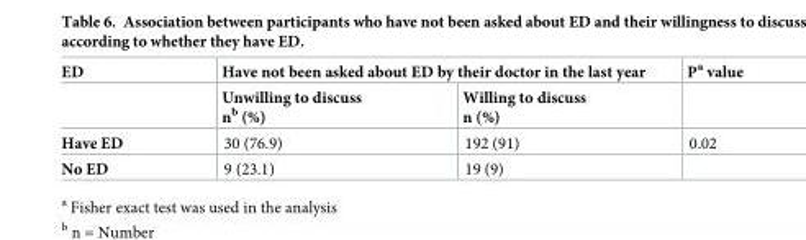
<table><thead><tr><td rowspan="2">ED</td><td colspan="2">Have not been asked about ED by their doctor in the last year</td><td rowspan="2">P<sup>a</sup> value</td></tr><tr><td>Unwilling to discuss n<sup>b</sup> (%)</td><td>Willing to discuss n (%)</td></tr></thead><tbody><tr><td>Have ED</td><td>30 (76.9)</td><td>192 (91)</td><td>0.02</td></tr><tr><td>No ED</td><td>9 (23.1)</td><td>19 (9)</td><td></td></tr></tbody></table>